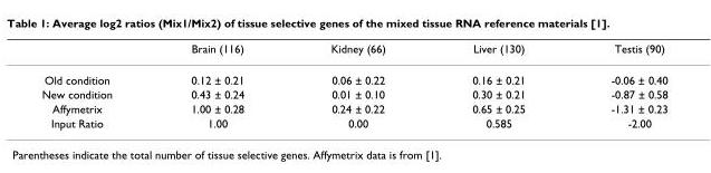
<table><thead><tr><td></td><td>Brain (116)</td><td>Kidney (66)</td><td>Liver (130)</td><td>Testis (90)</td></tr></thead><tbody><tr><td>Old condition</td><td>0.12 ± 0.21</td><td>0.06 ± 0.22</td><td>0.16 ± 0.21</td><td>-0.06 ± 0.40</td></tr><tr><td>New condition</td><td>0.43 ± 0.24</td><td>0.01 ± 0.10</td><td>0.30 ± 0.21</td><td>-0.87 ± 0.58</td></tr><tr><td>Affymetrix</td><td>1.00 ± 0.28</td><td>0.24 ± 0.22</td><td>0.65 ± 0.25</td><td>-1.31 ± 0.23</td></tr><tr><td>Input Ratio</td><td>1.00</td><td>0.00</td><td>0.585</td><td>-2.00</td></tr></tbody></table>